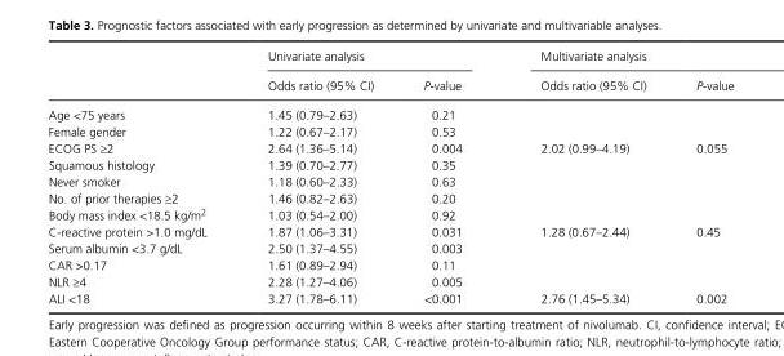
<table><thead><tr><td rowspan="2"></td><td colspan="2">Univariate analysis</td><td colspan="2">Multivariate analysis</td></tr><tr><td>Odds ratio (95% CI)</td><td>P- value</td><td>Odds ratio (95% CI)</td><td>P- value</td></tr></thead><tbody><tr><td>Age &lt;75 years</td><td>1.45 (0.79–2.63)</td><td>0.21</td><td></td><td></td></tr><tr><td>Female gender</td><td>1.22 (0.67–2.17)</td><td>0.53</td><td></td><td></td></tr><tr><td>ECOG PS ≥2</td><td>2.64 (1.36–5.14)</td><td>0.004</td><td>2.02 (0.99–4.19)</td><td>0.055</td></tr><tr><td>Squamous histology</td><td>1.39 (0.70–2.77)</td><td>0.35</td><td></td><td></td></tr><tr><td>Never smoker</td><td>1.18 (0.60–2.33)</td><td>0.63</td><td></td><td></td></tr><tr><td>No. of prior therapies ≥2</td><td>1.46 (0.82–2.63)</td><td>0.20</td><td></td><td></td></tr><tr><td>Body mass index &lt;18.5 kg/m<sup>2</sup></td><td>1.03 (0.54–2.00)</td><td>0.92</td><td></td><td></td></tr><tr><td>C- reactive protein &gt;1.0 mg/dL</td><td>1.87 (1.06–3.31)</td><td>0.031</td><td>1.28 (0.67–2.44)</td><td>0.45</td></tr><tr><td>Serum albumin &lt;3.7 g/dL</td><td>2.50 (1.37–4.55)</td><td>0.003</td><td></td><td></td></tr><tr><td>CAR &gt;0.17</td><td>1.61 (0.89–2.94)</td><td>0.11</td><td></td><td></td></tr><tr><td>NLR ≥4</td><td>2.28 (1.27–4.06)</td><td>0.005</td><td></td><td></td></tr><tr><td>ALI &lt;18</td><td>3.27 (1.78–6.11)</td><td>&lt;0.001</td><td>2.76 (1.45–5.34)</td><td>0.002</td></tr></tbody></table>